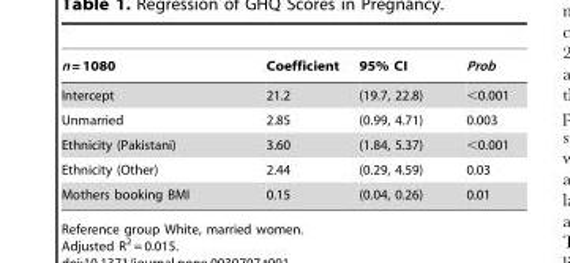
<table><thead><tr><td>n = 1080</td><td>Coefficient</td><td>95% CI</td><td>Prob</td></tr></thead><tbody><tr><td>Intercept</td><td>21.2</td><td>(19.7, 22.8)</td><td>&lt;0.001</td></tr><tr><td>Unmarried</td><td>2.85</td><td>(0.99, 4.71)</td><td>0.003</td></tr><tr><td>Ethnicity (Pakistani)</td><td>3.60</td><td>(1.84, 5.37)</td><td>&lt;0.001</td></tr><tr><td>Ethnicity (Other)</td><td>2.44</td><td>(0.29, 4.59)</td><td>0.03</td></tr><tr><td>Mothers booking BMI</td><td>0.15</td><td>(0.04, 0.26)</td><td>0.01</td></tr></tbody></table>